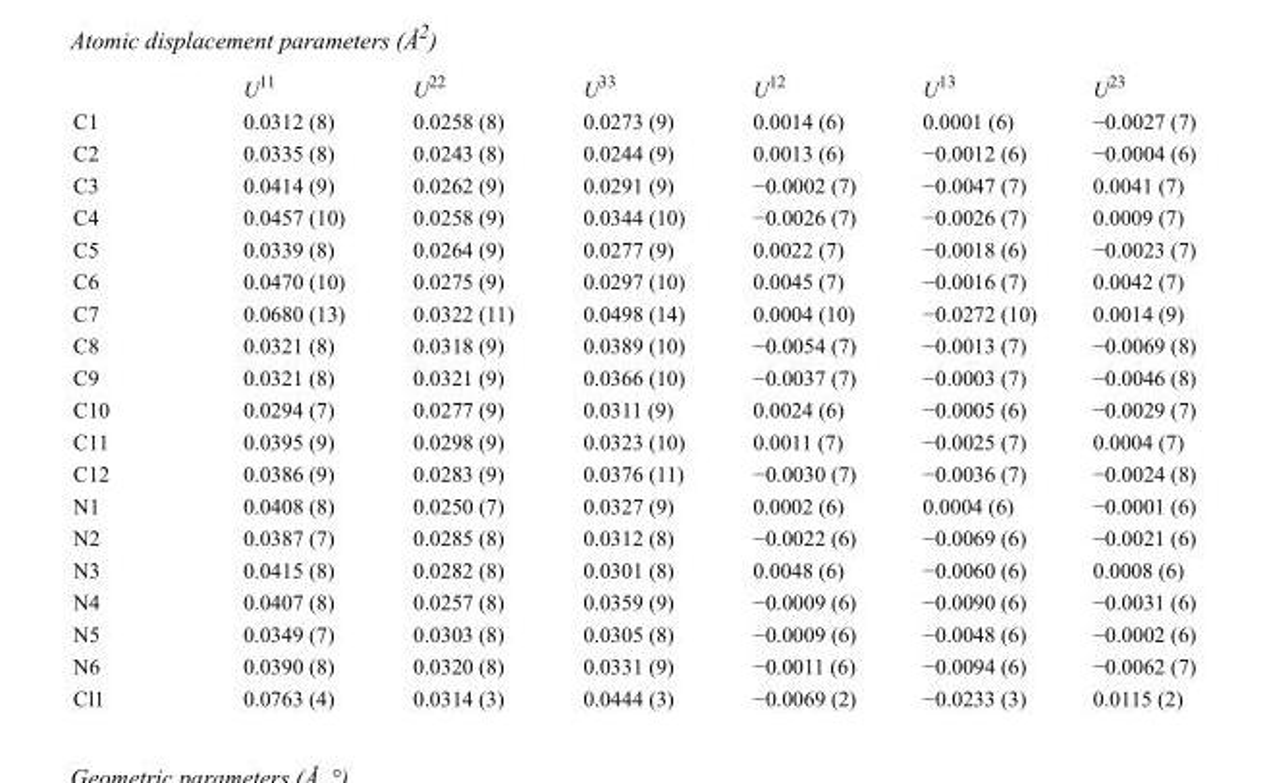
<table><thead><tr><td></td><td>U<sup>11</sup></td><td>U<sup>22</sup></td><td>U<sup>33</sup></td><td>U<sup>12</sup></td><td>U<sup>13</sup></td><td>U<sup>23</sup></td></tr></thead><tbody><tr><td>C1</td><td>0.0312 (8)</td><td>0.0258 (8)</td><td>0.0273 (9)</td><td>0.0014 (6)</td><td>0.0001 (6)</td><td>−0.0027 (7)</td></tr><tr><td>C2</td><td>0.0335 (8)</td><td>0.0243 (8)</td><td>0.0244 (9)</td><td>0.0013 (6)</td><td>−0.0012 (6)</td><td>−0.0004 (6)</td></tr><tr><td>C3</td><td>0.0414 (9)</td><td>0.0262 (9)</td><td>0.0291 (9)</td><td>−0.0002 (7)</td><td>−0.0047 (7)</td><td>0.0041 (7)</td></tr><tr><td>C4</td><td>0.0457 (10)</td><td>0.0258 (9)</td><td>0.0344 (10)</td><td>−0.0026 (7)</td><td>−0.0026 (7)</td><td>0.0009 (7)</td></tr><tr><td>C5</td><td>0.0339 (8)</td><td>0.0264 (9)</td><td>0.0277 (9)</td><td>0.0022 (7)</td><td>−0.0018 (6)</td><td>−0.0023 (7)</td></tr><tr><td>C6</td><td>0.0470 (10)</td><td>0.0275 (9)</td><td>0.0297 (10)</td><td>0.0045 (7)</td><td>−0.0016 (7)</td><td>0.0042 (7)</td></tr><tr><td>C7</td><td>0.0680 (13)</td><td>0.0322 (11)</td><td>0.0498 (14)</td><td>0.0004 (10)</td><td>−0.0272 (10)</td><td>0.0014 (9)</td></tr><tr><td>C8</td><td>0.0321 (8)</td><td>0.0318 (9)</td><td>0.0389 (10)</td><td>−0.0054 (7)</td><td>−0.0013 (7)</td><td>−0.0069 (8)</td></tr><tr><td>C9</td><td>0.0321 (8)</td><td>0.0321 (9)</td><td>0.0366 (10)</td><td>−0.0037 (7)</td><td>−0.0003 (7)</td><td>−0.0046 (8)</td></tr><tr><td>C10</td><td>0.0294 (7)</td><td>0.0277 (9)</td><td>0.0311 (9)</td><td>0.0024 (6)</td><td>−0.0005 (6)</td><td>−0.0029 (7)</td></tr><tr><td>C11</td><td>0.0395 (9)</td><td>0.0298 (9)</td><td>0.0323 (10)</td><td>0.0011 (7)</td><td>−0.0025 (7)</td><td>0.0004 (7)</td></tr><tr><td>C12</td><td>0.0386 (9)</td><td>0.0283 (9)</td><td>0.0376 (11)</td><td>−0.0030 (7)</td><td>−0.0036 (7)</td><td>−0.0024 (8)</td></tr><tr><td>N1</td><td>0.0408 (8)</td><td>0.0250 (7)</td><td>0.0327 (9)</td><td>0.0002 (6)</td><td>0.0004 (6)</td><td>−0.0001 (6)</td></tr><tr><td>N2</td><td>0.0387 (7)</td><td>0.0285 (8)</td><td>0.0312 (8)</td><td>−0.0022 (6)</td><td>−0.0069 (6)</td><td>−0.0021 (6)</td></tr><tr><td>N3</td><td>0.0415 (8)</td><td>0.0282 (8)</td><td>0.0301 (8)</td><td>0.0048 (6)</td><td>−0.0060 (6)</td><td>0.0008 (6)</td></tr><tr><td>N4</td><td>0.0407 (8)</td><td>0.0257 (8)</td><td>0.0359 (9)</td><td>−0.0009 (6)</td><td>−0.0090 (6)</td><td>−0.0031 (6)</td></tr><tr><td>N5</td><td>0.0349 (7)</td><td>0.0303 (8)</td><td>0.0305 (8)</td><td>−0.0009 (6)</td><td>−0.0048 (6)</td><td>−0.0002 (6)</td></tr><tr><td>N6</td><td>0.0390 (8)</td><td>0.0320 (8)</td><td>0.0331 (9)</td><td>−0.0011 (6)</td><td>−0.0094 (6)</td><td>−0.0062 (7)</td></tr><tr><td>Cl1</td><td>0.0763 (4)</td><td>0.0314 (3)</td><td>0.0444 (3)</td><td>−0.0069 (2)</td><td>−0.0233 (3)</td><td>0.0115 (2)</td></tr></tbody></table>